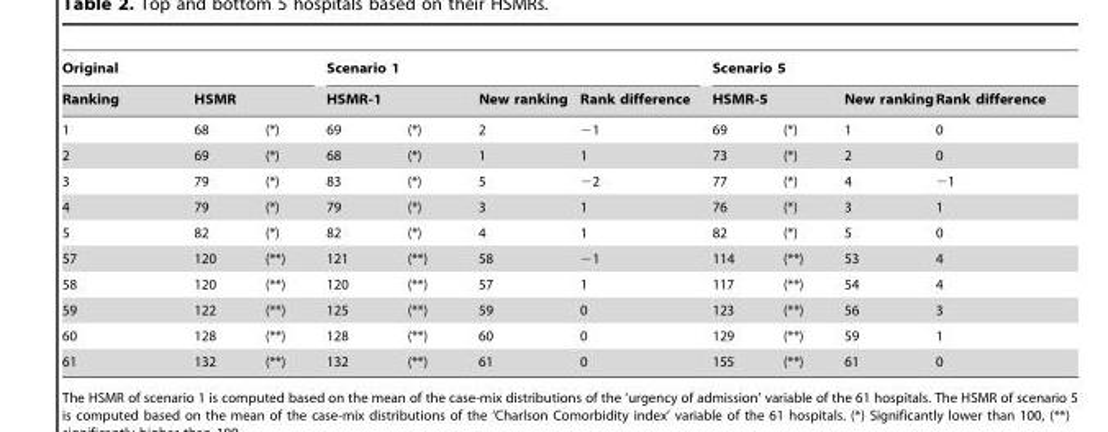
<table><thead><tr><td colspan="3">Original</td><td colspan="4">Scenario 1</td><td colspan="4">Scenario 5</td></tr><tr><td rowspan="2">Ranking 1</td><td colspan="2">HSMR</td><td colspan="2">HSMR-1</td><td rowspan="2">New ranking 2</td><td rowspan="2">Rank difference −1</td><td colspan="2">HSMR-5</td><td rowspan="2">New ranking 1</td><td rowspan="2">Rank difference 0</td></tr><tr><td>68</td><td>(*)</td><td>69</td><td>(*)</td><td>69</td><td>(*)</td></tr></thead><tbody><tr><td>2</td><td>69</td><td>(*)</td><td>68</td><td>(*)</td><td>1</td><td>1</td><td>73</td><td>(*)</td><td>2</td><td>0</td></tr><tr><td>3</td><td>79</td><td>(*)</td><td>83</td><td>(*)</td><td>5</td><td>−2</td><td>77</td><td>(*)</td><td>4</td><td>−1</td></tr><tr><td>4</td><td>79</td><td>(*)</td><td>79</td><td>(*)</td><td>3</td><td>1</td><td>76</td><td>(*)</td><td>3</td><td>1</td></tr><tr><td>5</td><td>82</td><td>(*)</td><td>82</td><td>(*)</td><td>4</td><td>1</td><td>82</td><td>(*)</td><td>5</td><td>0</td></tr><tr><td>57</td><td>120</td><td>(**)</td><td>121</td><td>(**)</td><td>58</td><td>−1</td><td>114</td><td>(**)</td><td>53</td><td>4</td></tr><tr><td>58</td><td>120</td><td>(**)</td><td>120</td><td>(**)</td><td>57</td><td>1</td><td>117</td><td>(**)</td><td>54</td><td>4</td></tr><tr><td>59</td><td>122</td><td>(**)</td><td>125</td><td>(**)</td><td>59</td><td>0</td><td>123</td><td>(**)</td><td>56</td><td>3</td></tr><tr><td>60</td><td>128</td><td>(**)</td><td>128</td><td>(**)</td><td>60</td><td>0</td><td>129</td><td>(**)</td><td>59</td><td>1</td></tr><tr><td>61</td><td>132</td><td>(**)</td><td>132</td><td>(**)</td><td>61</td><td>0</td><td>155</td><td>(**)</td><td>61</td><td>0</td></tr></tbody></table>